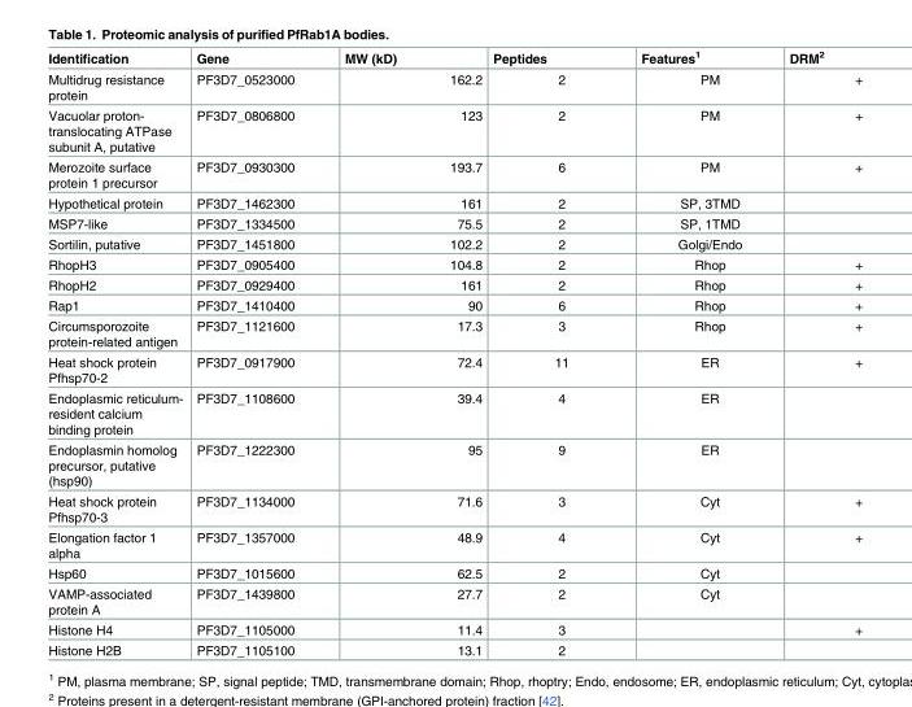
<table><thead><tr><td>Identification</td><td>Gene</td><td>MW (kD)</td><td>Peptides</td><td>Features<sup>1</sup></td><td>DRM<sup>2</sup></td></tr></thead><tbody><tr><td>Multidrug resistance protein</td><td>PF3D7_0523000</td><td>162.2</td><td>2</td><td>PM</td><td>+</td></tr><tr><td>Vacuolar proton- translocating ATPase subunit A, putative</td><td>PF3D7_0806800</td><td>123</td><td>2</td><td>PM</td><td>+</td></tr><tr><td>Merozoite surface protein 1 precursor</td><td>PF3D7_0930300</td><td>193.7</td><td>6</td><td>PM</td><td>+</td></tr><tr><td>Hypothetical protein</td><td>PF3D7_1462300</td><td>161</td><td>2</td><td>SP, 3TMD</td><td></td></tr><tr><td>MSP7-like</td><td>PF3D7_1334500</td><td>75.5</td><td>2</td><td>SP, 1TMD</td><td></td></tr><tr><td>Sortilin, putative</td><td>PF3D7_1451800</td><td>102.2</td><td>2</td><td>Golgi/Endo</td><td></td></tr><tr><td>RhopH3</td><td>PF3D7_0905400</td><td>104.8</td><td>2</td><td>Rhop</td><td>+</td></tr><tr><td>RhopH2</td><td>PF3D7_0929400</td><td>161</td><td>2</td><td>Rhop</td><td>+</td></tr><tr><td>Rap1</td><td>PF3D7_1410400</td><td>90</td><td>6</td><td>Rhop</td><td>+</td></tr><tr><td>Circumsporozoite protein-related antigen</td><td>PF3D7_1121600</td><td>17.3</td><td>3</td><td>Rhop</td><td>+</td></tr><tr><td>Heat shock protein Pfhsp70-2</td><td>PF3D7_0917900</td><td>72.4</td><td>11</td><td>ER</td><td>+</td></tr><tr><td>Endoplasmic reticulum- resident calcium binding protein</td><td>PF3D7_1108600</td><td>39.4</td><td>4</td><td>ER</td><td></td></tr><tr><td>Endoplasmin homolog precursor, putative (hsp90)</td><td>PF3D7_1222300</td><td>95</td><td>9</td><td>ER</td><td></td></tr><tr><td>Heat shock protein Pfhsp70-3</td><td>PF3D7_1134000</td><td>71.6</td><td>3</td><td>Cyt</td><td>+</td></tr><tr><td>Elongation factor 1 alpha</td><td>PF3D7_1357000</td><td>48.9</td><td>4</td><td>Cyt</td><td>+</td></tr><tr><td>Hsp60</td><td>PF3D7_1015600</td><td>62.5</td><td>2</td><td>Cyt</td><td></td></tr><tr><td>VAMP-associated protein A</td><td>PF3D7_1439800</td><td>27.7</td><td>2</td><td>Cyt</td><td></td></tr><tr><td>Histone H4</td><td>PF3D7_1105000</td><td>11.4</td><td>3</td><td></td><td>+</td></tr><tr><td>Histone H2B</td><td>PF3D7_1105100</td><td>13.1</td><td>2</td><td></td><td></td></tr></tbody></table>